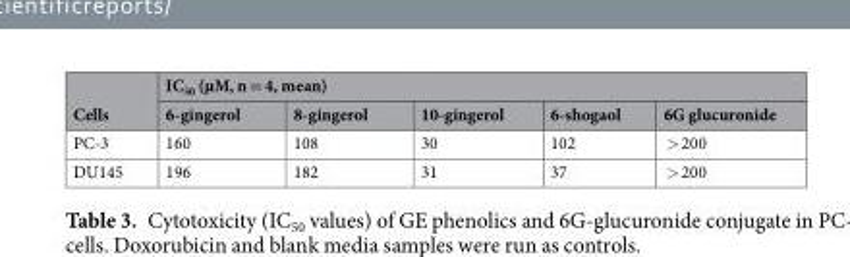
<table><thead><tr><td rowspan="2">Cells</td><td colspan="5">IC<sub>50</sub> (µM, n = 4, mean)</td></tr><tr><td>6-gingerol</td><td>8-gingerol</td><td>10-gingerol</td><td>6-shogaol</td><td>6G glucuronide</td></tr></thead><tbody><tr><td>PC-3</td><td>160</td><td>108</td><td>30</td><td>102</td><td>&gt; 200</td></tr><tr><td>DU145</td><td>196</td><td>182</td><td>31</td><td>37</td><td>&gt; 200</td></tr></tbody></table>